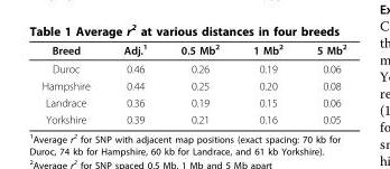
<table><thead><tr><td>Breed</td><td>Adj.<sup>1</sup></td><td>0.5 Mb<sup>2</sup></td><td>1 Mb<sup>2</sup></td><td>5 Mb<sup>2</sup></td></tr></thead><tbody><tr><td>Duroc</td><td>0.46</td><td>0.26</td><td>0.19</td><td>0.06</td></tr><tr><td>Hampshire</td><td>0.44</td><td>0.25</td><td>0.20</td><td>0.08</td></tr><tr><td>Landrace</td><td>0.36</td><td>0.19</td><td>0.15</td><td>0.06</td></tr><tr><td>Yorkshire</td><td>0.39</td><td>0.21</td><td>0.16</td><td>0.05</td></tr></tbody></table>